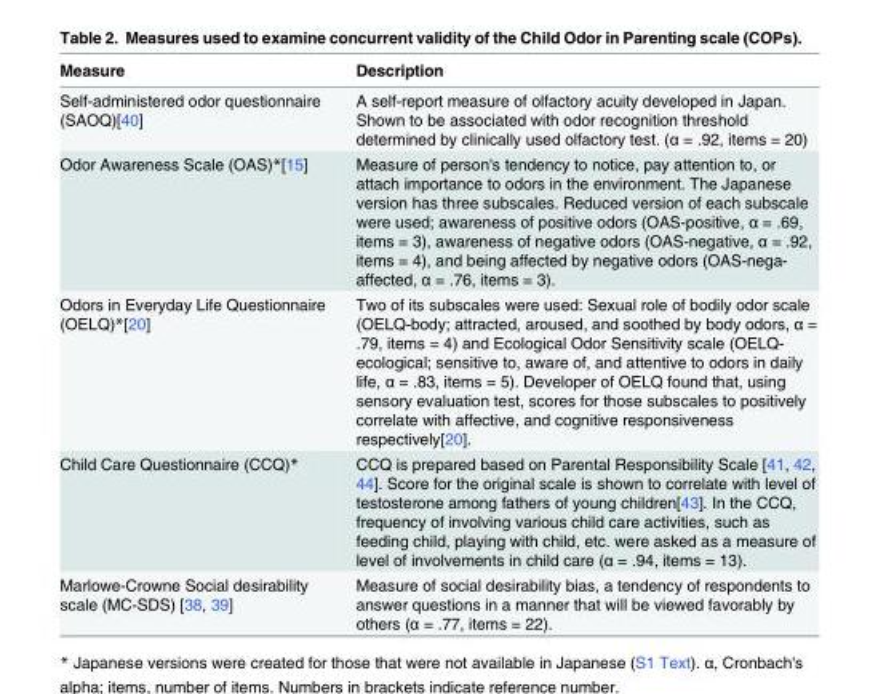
<table><thead><tr><td>Measure</td><td>Description</td></tr></thead><tbody><tr><td>Self-administered odor questionnaire (SAOQ)[40]</td><td>A self-report measure of olfactory acuity developed in Japan. Shown to be associated with odor recognition threshold determined by clinically used olfactory test. (α = .92, items = 20)</td></tr><tr><td>Odor Awareness Scale (OAS)*[15]</td><td>Measure of person&#x27;s tendency to notice, pay attention to, or attach importance to odors in the environment. The Japanese version has three subscales. Reduced version of each subscale were used; awareness of positive odors (OAS-positive, α = .69, items = 3), awareness of negative odors (OAS-negative, α = .92, items = 4), and being affected by negative odors (OAS-nega- affected, α = .76, items = 3).</td></tr><tr><td>Odors in Everyday Life Questionnaire (OELQ)*[20]</td><td>Two of its subscales were used: Sexual role of bodily odor scale (OELQ-body; attracted, aroused, and soothed by body odors, α = .79, items = 4) and Ecological Odor Sensitivity scale (OELQ- ecological; sensitive to, aware of, and attentive to odors in daily life, α = .83, items = 5). Developer of OELQ found that, using sensory evaluation test, scores for those subscales to positively correlate with affective, and cognitive responsiveness respectively[20].</td></tr><tr><td>Child Care Questionnaire (CCQ)*</td><td>CCQ is prepared based on Parental Responsibility Scale [41, 42, 44]. Score for the original scale is shown to correlate with level of testosterone among fathers of young children[43]. In the CCQ, frequency of involving various child care activities, such as feeding child, playing with child, etc. were asked as a measure of level of involvements in child care (α = .94, items = 13).</td></tr><tr><td>Marlowe-Crowne Social desirability scale (MC-SDS) [38, 39]</td><td>Measure of social desirability bias, a tendency of respondents to answer questions in a manner that will be viewed favorably by others (α = .77, items = 22).</td></tr></tbody></table>